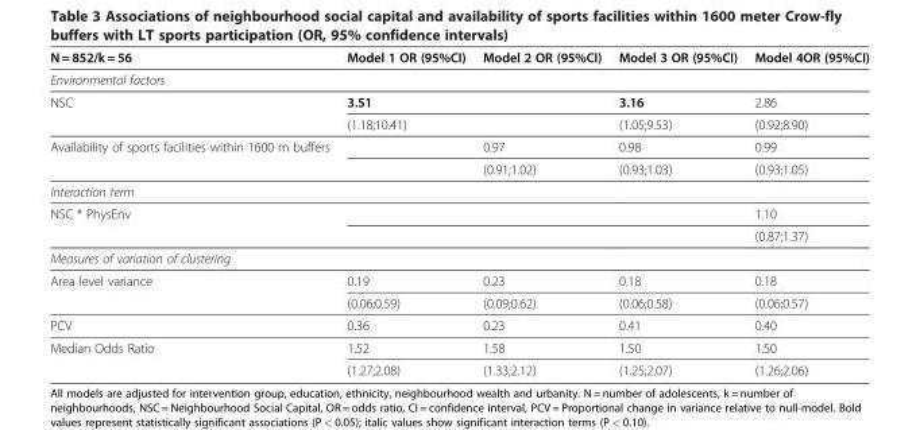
<table><thead><tr><td>N = 852/k = 56</td><td>Model 1 OR (95%CI)</td><td>Model 2 OR (95%CI)</td><td>Model 3 OR (95%CI)</td><td>Model 4OR (95%CI)</td></tr></thead><tbody><tr><td colspan="5">Environmental factors</td></tr><tr><td rowspan="2">NSC</td><td>3.51</td><td></td><td>3.16</td><td>2.86</td></tr><tr><td>(1.18;10.41)</td><td></td><td>(1.05;9.53)</td><td>(0.92;8.90)</td></tr><tr><td rowspan="2">Availability of sports facilities within 1600 m buffers</td><td></td><td>0.97</td><td>0.98</td><td>0.99</td></tr><tr><td></td><td>(0.91;1.02)</td><td>(0.93;1.03)</td><td>(0.93;1.05)</td></tr><tr><td colspan="5">Interaction term</td></tr><tr><td rowspan="2">NSC * PhysEnv</td><td></td><td></td><td></td><td>1.10</td></tr><tr><td></td><td></td><td></td><td>(0.87;1.37)</td></tr><tr><td colspan="5">Measures of variation of clustering</td></tr><tr><td rowspan="2">Area level variance</td><td>0.19</td><td>0.23</td><td>0.18</td><td>0.18</td></tr><tr><td>(0.06;0.59)</td><td>(0.09;0.62)</td><td>(0.06;0.58)</td><td>(0.06;0.57)</td></tr><tr><td>PCV</td><td>0.36</td><td>0.23</td><td>0.41</td><td>0.40</td></tr><tr><td rowspan="2">Median Odds Ratio</td><td>1.52</td><td>1.58</td><td>1.50</td><td>1.50</td></tr><tr><td>(1.27;2.08)</td><td>(1.33;2.12)</td><td>(1.25;2.07)</td><td>(1.26;2.06)</td></tr></tbody></table>